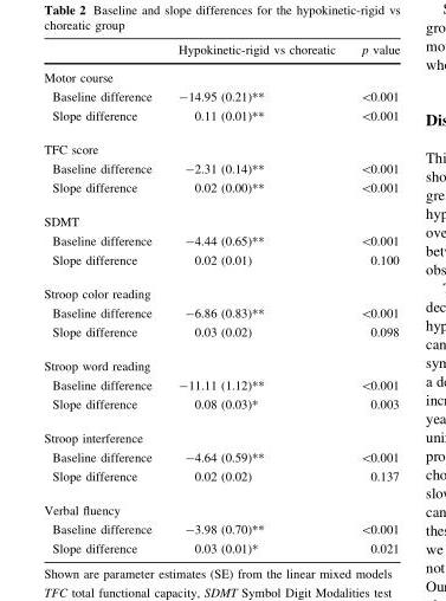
<table><thead><tr><td></td><td>Hypokinetic-rigid vs choreatic</td><td>p value</td></tr></thead><tbody><tr><td colspan="3">Motor course</td></tr><tr><td>Baseline difference</td><td>-14.95 (0.21)**</td><td>&lt;0.001</td></tr><tr><td>Slope difference</td><td>0.11 (0.01)**</td><td>&lt;0.001</td></tr><tr><td colspan="3">TFC score</td></tr><tr><td>Baseline difference</td><td>-2.31 (0.14)**</td><td>&lt;0.001</td></tr><tr><td>Slope difference</td><td>0.02 (0.00)**</td><td>&lt;0.001</td></tr><tr><td colspan="3">SDMT</td></tr><tr><td>Baseline difference</td><td>-4.44 (0.65)**</td><td>&lt;0.001</td></tr><tr><td>Slope difference</td><td>0.02 (0.01)</td><td>0.100</td></tr><tr><td colspan="3">Stroop color reading</td></tr><tr><td>Baseline difference</td><td>-6.86 (0.83)**</td><td>&lt;0.001</td></tr><tr><td>Slope difference</td><td>0.03 (0.02)</td><td>0.098</td></tr><tr><td colspan="3">Stroop word reading</td></tr><tr><td>Baseline difference</td><td>-11.11 (1.12)**</td><td>&lt;0.001</td></tr><tr><td>Slope difference</td><td>0.08 (0.03)*</td><td>0.003</td></tr><tr><td colspan="3">Stroop interference</td></tr><tr><td>Baseline difference</td><td>-4.64 (0.59)**</td><td>&lt;0.001</td></tr><tr><td>Slope difference</td><td>0.02 (0.02)</td><td>0.137</td></tr><tr><td colspan="3">Verbal fluency</td></tr><tr><td>Baseline difference</td><td>-3.98 (0.70)**</td><td>&lt;0.001</td></tr><tr><td>Slope difference</td><td>0.03 (0.01)*</td><td>0.021</td></tr></tbody></table>